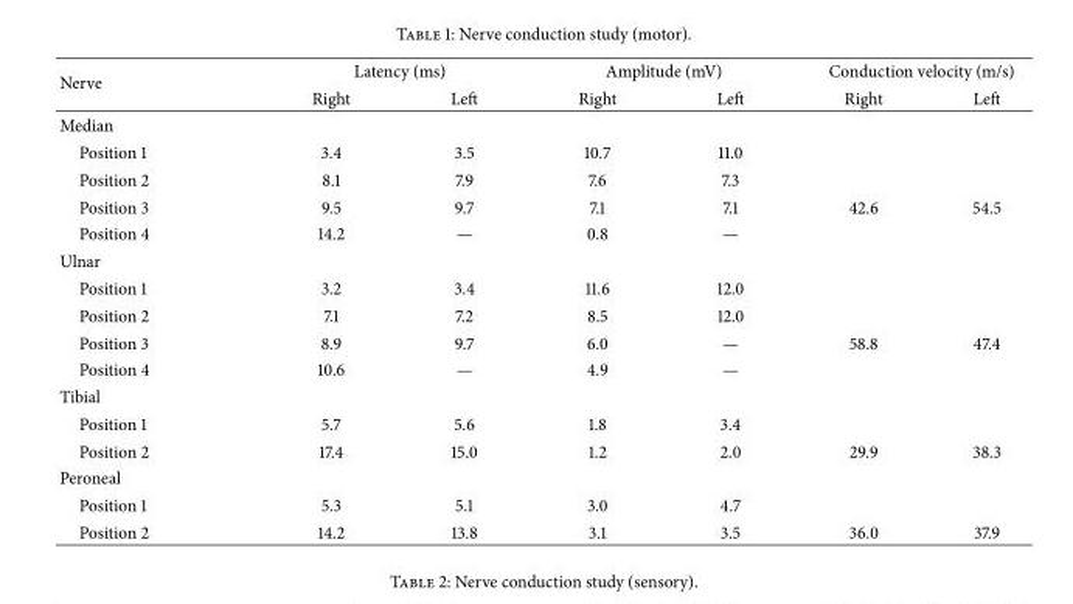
<table><thead><tr><td rowspan="2">Nerve</td><td colspan="2">Latency (ms)</td><td colspan="2">Amplitude (mV)</td><td colspan="2">Conduction velocity (m/s)</td></tr><tr><td>Right</td><td>Left</td><td>Right</td><td>Left</td><td>Right</td><td>Left</td></tr></thead><tbody><tr><td colspan="7">Median</td></tr><tr><td>Position 1</td><td>3.4</td><td>3.5</td><td>10.7</td><td>11.0</td><td></td><td></td></tr><tr><td>Position 2</td><td>8.1</td><td>7.9</td><td>7.6</td><td>7.3</td><td></td><td></td></tr><tr><td>Position 3</td><td>9.5</td><td>9.7</td><td>7.1</td><td>7.1</td><td>42.6</td><td>54.5</td></tr><tr><td>Position 4</td><td>14.2</td><td>—</td><td>0.8</td><td>—</td><td></td><td></td></tr><tr><td colspan="7">Ulnar</td></tr><tr><td>Position 1</td><td>3.2</td><td>3.4</td><td>11.6</td><td>12.0</td><td></td><td></td></tr><tr><td>Position 2</td><td>7.1</td><td>7.2</td><td>8.5</td><td>12.0</td><td></td><td></td></tr><tr><td>Position 3</td><td>8.9</td><td>9.7</td><td>6.0</td><td>—</td><td>58.8</td><td>47.4</td></tr><tr><td>Position 4</td><td>10.6</td><td>—</td><td>4.9</td><td>—</td><td></td><td></td></tr><tr><td colspan="7">Tibial</td></tr><tr><td>Position 1</td><td>5.7</td><td>5.6</td><td>1.8</td><td>3.4</td><td></td><td></td></tr><tr><td>Position 2</td><td>17.4</td><td>15.0</td><td>1.2</td><td>2.0</td><td>29.9</td><td>38.3</td></tr><tr><td colspan="7">Peroneal</td></tr><tr><td>Position 1</td><td>5.3</td><td>5.1</td><td>3.0</td><td>4.7</td><td></td><td></td></tr><tr><td>Position 2</td><td>14.2</td><td>13.8</td><td>3.1</td><td>3.5</td><td>36.0</td><td>37.9</td></tr></tbody></table>